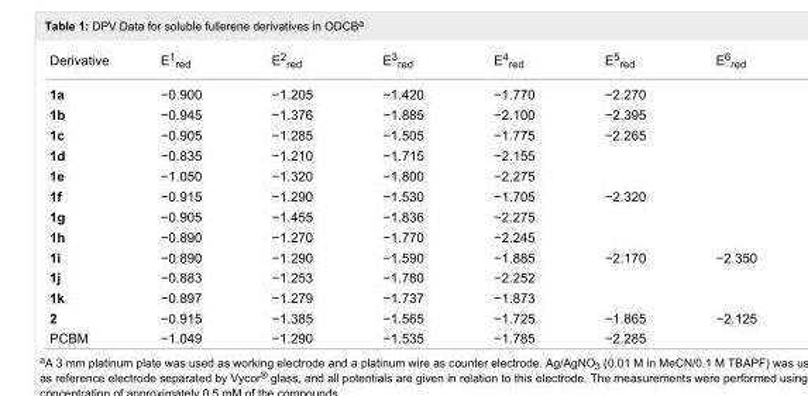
<table><tbody><tr><td>Derivative</td><td>E<sup>1</sup><sub>red</sub></td><td>E<sup>2</sup><sub>red</sub></td><td>E<sup>3</sup><sub>red</sub></td><td>E<sup>4</sup><sub>red</sub></td><td>E<sup>5</sup><sub>red</sub></td><td>E<sup>6</sup><sub>red</sub></td></tr><tr><td>1a</td><td>−0.900</td><td>−1.205</td><td>−1.420</td><td>−1.770</td><td>−2.270</td><td></td></tr><tr><td>1b</td><td>−0.945</td><td>−1.376</td><td>−1.885</td><td>−2.100</td><td>−2.395</td><td></td></tr><tr><td>1c</td><td>−0.905</td><td>−1.285</td><td>−1.505</td><td>−1.775</td><td>−2.265</td><td></td></tr><tr><td>1d</td><td>−0.835</td><td>−1.210</td><td>−1.715</td><td>−2.155</td><td></td><td></td></tr><tr><td>1e</td><td>−1.050</td><td>−1.320</td><td>−1.800</td><td>−2.275</td><td></td><td></td></tr><tr><td>1f</td><td>−0.915</td><td>−1.290</td><td>−1.530</td><td>−1.705</td><td>−2.320</td><td></td></tr><tr><td>1g</td><td>−0.905</td><td>−1.455</td><td>−1.836</td><td>−2.275</td><td></td><td></td></tr><tr><td>1h</td><td>−0.890</td><td>−1.270</td><td>−1.770</td><td>−2.245</td><td></td><td></td></tr><tr><td>1i</td><td>−0.890</td><td>−1.290</td><td>−1.590</td><td>−1.885</td><td>−2.170</td><td>−2.350</td></tr><tr><td>1j</td><td>−0.883</td><td>−1.253</td><td>−1.780</td><td>−2.252</td><td></td><td></td></tr><tr><td>1k</td><td>−0.897</td><td>−1.279</td><td>−1.737</td><td>−1.873</td><td></td><td></td></tr><tr><td>2</td><td>−0.915</td><td>−1.385</td><td>−1.565</td><td>−1.725</td><td>−1.865</td><td>−2.125</td></tr><tr><td>PCBM</td><td>−1.049</td><td>−1.290</td><td>−1.535</td><td>−1.785</td><td>−2.285</td><td></td></tr></tbody></table>